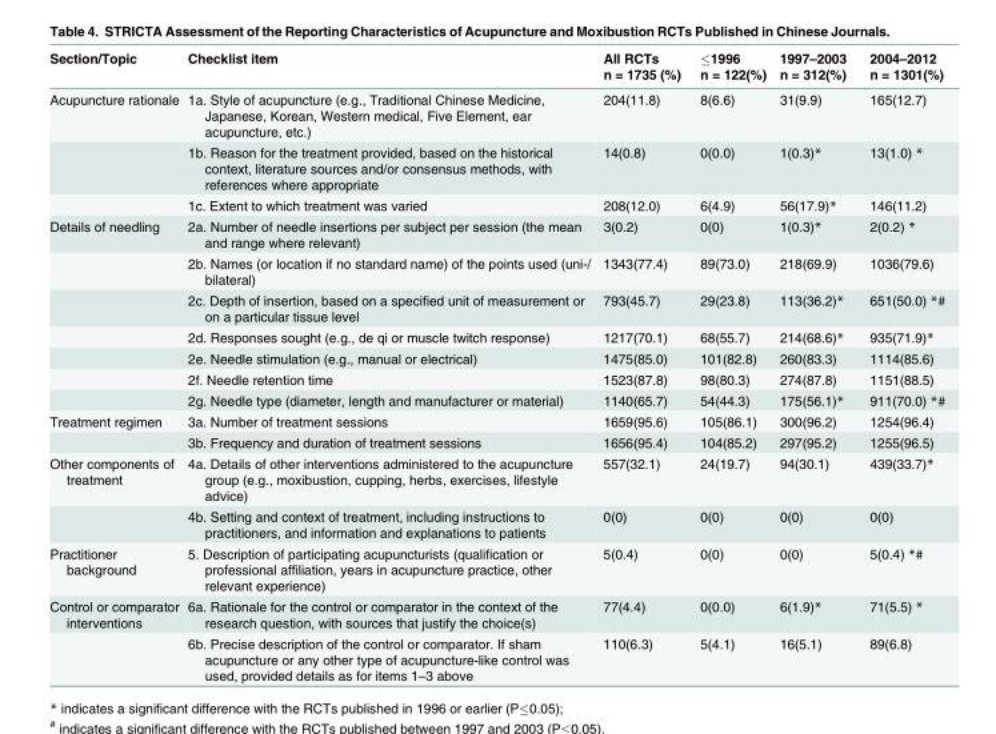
<table><thead><tr><td>Section/Topic</td><td>Checklist item</td><td>All RCTs n = 1735 (%)</td><td>≤1996 n = 122(%)</td><td>1997–2003 n = 312(%)</td><td>2004–2012 n = 1301(%)</td></tr></thead><tbody><tr><td rowspan="3">Acupuncture rationale</td><td>1a. Style of acupuncture (e.g., Traditional Chinese Medicine, Japanese, Korean, Western medical, Five Element, ear acupuncture, etc.)</td><td>204(11.8)</td><td>8(6.6)</td><td>31(9.9)</td><td>165(12.7)</td></tr><tr><td>1b. Reason for the treatment provided, based on the historical context, literature sources and/or consensus methods, with references where appropriate</td><td>14(0.8)</td><td>0(0.0)</td><td>1(0.3)*</td><td>13(1.0) *</td></tr><tr><td>1c. Extent to which treatment was varied</td><td>208(12.0)</td><td>6(4.9)</td><td>56(17.9)*</td><td>146(11.2)</td></tr><tr><td rowspan="7">Details of needling</td><td>2a. Number of needle insertions per subject per session (the mean and range where relevant)</td><td>3(0.2)</td><td>0(0)</td><td>1(0.3)*</td><td>2(0.2) *</td></tr><tr><td>2b. Names (or location if no standard name) of the points used (uni-/ bilateral)</td><td>1343(77.4)</td><td>89(73.0)</td><td>218(69.9)</td><td>1036(79.6)</td></tr><tr><td>2c. Depth of insertion, based on a specified unit of measurement or on a particular tissue level</td><td>793(45.7)</td><td>29(23.8)</td><td>113(36.2)*</td><td>651(50.0) *#</td></tr><tr><td>2d. Responses sought (e.g., de qi or muscle twitch response)</td><td>1217(70.1)</td><td>68(55.7)</td><td>214(68.6)*</td><td>935(71.9)*</td></tr><tr><td>2e. Needle stimulation (e.g., manual or electrical)</td><td>1475(85.0)</td><td>101(82.8)</td><td>260(83.3)</td><td>1114(85.6)</td></tr><tr><td>2f. Needle retention time</td><td>1523(87.8)</td><td>98(80.3)</td><td>274(87.8)</td><td>1151(88.5)</td></tr><tr><td>2g. Needle type (diameter, length and manufacturer or material)</td><td>1140(65.7)</td><td>54(44.3)</td><td>175(56.1)*</td><td>911(70.0) *#</td></tr><tr><td rowspan="2">Treatment regimen</td><td>3a. Number of treatment sessions</td><td>1659(95.6)</td><td>105(86.1)</td><td>300(96.2)</td><td>1254(96.4)</td></tr><tr><td>3b. Frequency and duration of treatment sessions</td><td>1656(95.4)</td><td>104(85.2)</td><td>297(95.2)</td><td>1255(96.5)</td></tr><tr><td rowspan="2">Other components of treatment</td><td>4a. Details of other interventions administered to the acupuncture group (e.g., moxibustion, cupping, herbs, exercises, lifestyle advice)</td><td>557(32.1)</td><td>24(19.7)</td><td>94(30.1)</td><td>439(33.7)*</td></tr><tr><td>4b. Setting and context of treatment, including instructions to practitioners, and information and explanations to patients</td><td>0(0)</td><td>0(0)</td><td>0(0)</td><td>0(0)</td></tr><tr><td>Practitioner background</td><td>5. Description of participating acupuncturists (qualification or professional affiliation, years in acupuncture practice, other relevant experience)</td><td>5(0.4)</td><td>0(0)</td><td>0(0)</td><td>5(0.4) *#</td></tr><tr><td rowspan="2">Control or comparator interventions</td><td>6a. Rationale for the control or comparator in the context of the research question, with sources that justify the choice(s)</td><td>77(4.4)</td><td>0(0.0)</td><td>6(1.9)*</td><td>71(5.5) *</td></tr><tr><td>6b. Precise description of the control or comparator. If sham acupuncture or any other type of acupuncture-like control was used, provided details as for items 1–3 above</td><td>110(6.3)</td><td>5(4.1)</td><td>16(5.1)</td><td>89(6.8)</td></tr></tbody></table>